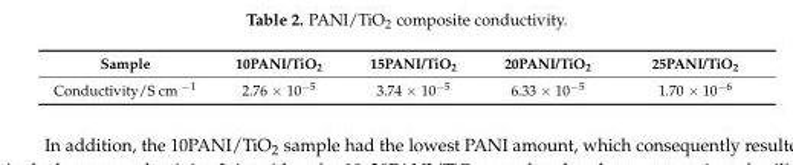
<table><thead><tr><td>Sample</td><td>10PANI/TiO2</td><td>15PANI/TiO2</td><td>20PANI/TiO2</td><td>25PANI/TiO2</td></tr></thead><tbody><tr><td>Conductivity/S cm −1</td><td>2.76 × 10−5</td><td>3.74 × 10−5</td><td>6.33 × 10−5</td><td>1.70 × 10−6</td></tr></tbody></table>